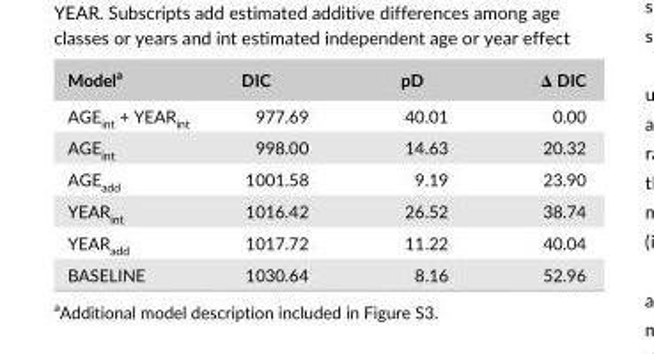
<table><thead><tr><td>Model<sup>a</sup></td><td>DIC</td><td>pD</td><td>Δ DIC</td></tr></thead><tbody><tr><td>AGE<sub>int</sub> + YEAR<sub>int</sub></td><td>977.69</td><td>40.01</td><td>0.00</td></tr><tr><td>AGE<sub>int</sub></td><td>998.00</td><td>14.63</td><td>20.32</td></tr><tr><td>AGE<sub>add</sub></td><td>1001.58</td><td>9.19</td><td>23.90</td></tr><tr><td>YEAR<sub>int</sub></td><td>1016.42</td><td>26.52</td><td>38.74</td></tr><tr><td>YEAR<sub>add</sub></td><td>1017.72</td><td>11.22</td><td>40.04</td></tr><tr><td>BASELINE</td><td>1030.64</td><td>8.16</td><td>52.96</td></tr></tbody></table>